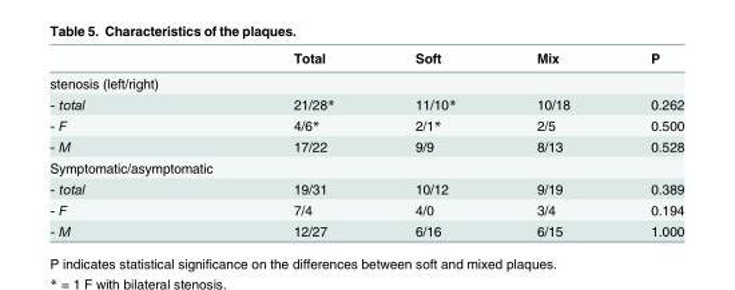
<table><thead><tr><td></td><td>Total</td><td>Soft</td><td>Mix</td><td>P</td></tr></thead><tbody><tr><td colspan="5">stenosis (left/right)</td></tr><tr><td>- total</td><td>21/28*</td><td>11/10*</td><td>10/18</td><td>0.262</td></tr><tr><td>- F</td><td>4/6*</td><td>2/1*</td><td>2/5</td><td>0.500</td></tr><tr><td>- M</td><td>17/22</td><td>9/9</td><td>8/13</td><td>0.528</td></tr><tr><td colspan="5">Symptomatic/asymptomatic</td></tr><tr><td>- total</td><td>19/31</td><td>10/12</td><td>9/19</td><td>0.389</td></tr><tr><td>- F</td><td>7/4</td><td>4/0</td><td>3/4</td><td>0.194</td></tr><tr><td>- M</td><td>12/27</td><td>6/16</td><td>6/15</td><td>1.000</td></tr></tbody></table>